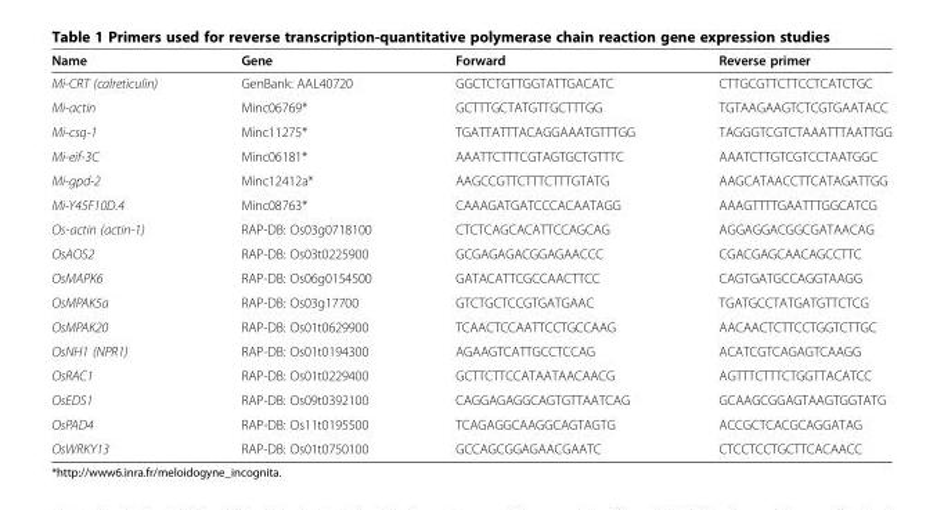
<table><thead><tr><td>Name</td><td>Gene</td><td>Forward</td><td>Reverse primer</td></tr></thead><tbody><tr><td>Mi-CRT (calreticulin)</td><td>GenBank: AAL40720</td><td>GGCTCTGTTGGTATTGACATC</td><td>CTTGCGTTCTTCCTCATCTGC</td></tr><tr><td>Mi-actin</td><td>Minc06769*</td><td>GCTTTGCTATGTTGCTTTGG</td><td>TGTAAGAAGTCTCGTGAATACC</td></tr><tr><td>Mi-csq-1</td><td>Minc11275*</td><td>TGATTATTTACAGGAAATGTTTGG</td><td>TAGGGTCGTCTAAATTTAATTGG</td></tr><tr><td>Mi-eif-3C</td><td>Minc06181*</td><td>AAATTCTTTCGTAGTGCTGTTTC</td><td>AAATCTTGTCGTCCTAATGGC</td></tr><tr><td>Mi-gpd-2</td><td>Minc12412a*</td><td>AAGCCGTTCTTTCTTTGTATG</td><td>AAGCATAACCTTCATAGATTGG</td></tr><tr><td>Mi-Y45F10D.4</td><td>Minc08763*</td><td>CAAAGATGATCCCACAATAGG</td><td>AAAGTTTTGAATTTGGCATCG</td></tr><tr><td>Os-actin (actin-1)</td><td>RAP-DB: Os03g0718100</td><td>CTCTCAGCACATTCCAGCAG</td><td>AGGAGGACGGCGATAACAG</td></tr><tr><td>OsAOS2</td><td>RAP-DB: Os03t0225900</td><td>GCGAGAGACGGAGAACCC</td><td>CGACGAGCAACAGCCTTC</td></tr><tr><td>OsMAPK6</td><td>RAP-DB: Os06g0154500</td><td>GATACATTCGCCAACTTCC</td><td>CAGTGATGCCAGGTAAGG</td></tr><tr><td>OsMPAK5a</td><td>RAP-DB: Os03g17700</td><td>GTCTGCTCCGTGATGAAC</td><td>TGATGCCTATGATGTTCTCG</td></tr><tr><td>OsMPAK20</td><td>RAP-DB: Os01t0629900</td><td>TCAACTCCAATTCCTGCCAAG</td><td>AACAACTCTTCCTGGTCTTGC</td></tr><tr><td>OsNH1 (NPR1)</td><td>RAP-DB: Os01t0194300</td><td>AGAAGTCATTGCCTCCAG</td><td>ACATCGTCAGAGTCAAGG</td></tr><tr><td>OsRAC1</td><td>RAP-DB: Os01t0229400</td><td>GCTTCTTCCATAATAACAACG</td><td>AGTTTCTTTCTGGTTACATCC</td></tr><tr><td>OsEDS1</td><td>RAP-DB: Os09t0392100</td><td>CAGGAGAGGCAGTGTTAATCAG</td><td>GCAAGCGGAGTAAGTGGTATG</td></tr><tr><td>OsPAD4</td><td>RAP-DB: Os11t0195500</td><td>TCAGAGGCAAGGCAGTAGTG</td><td>ACCGCTCACGCAGGATAG</td></tr><tr><td>OsWRKY13</td><td>RAP-DB: Os01t0750100</td><td>GCCAGCGGAGAACGAATC</td><td>CTCCTCCTGCTTCACAACC</td></tr></tbody></table>